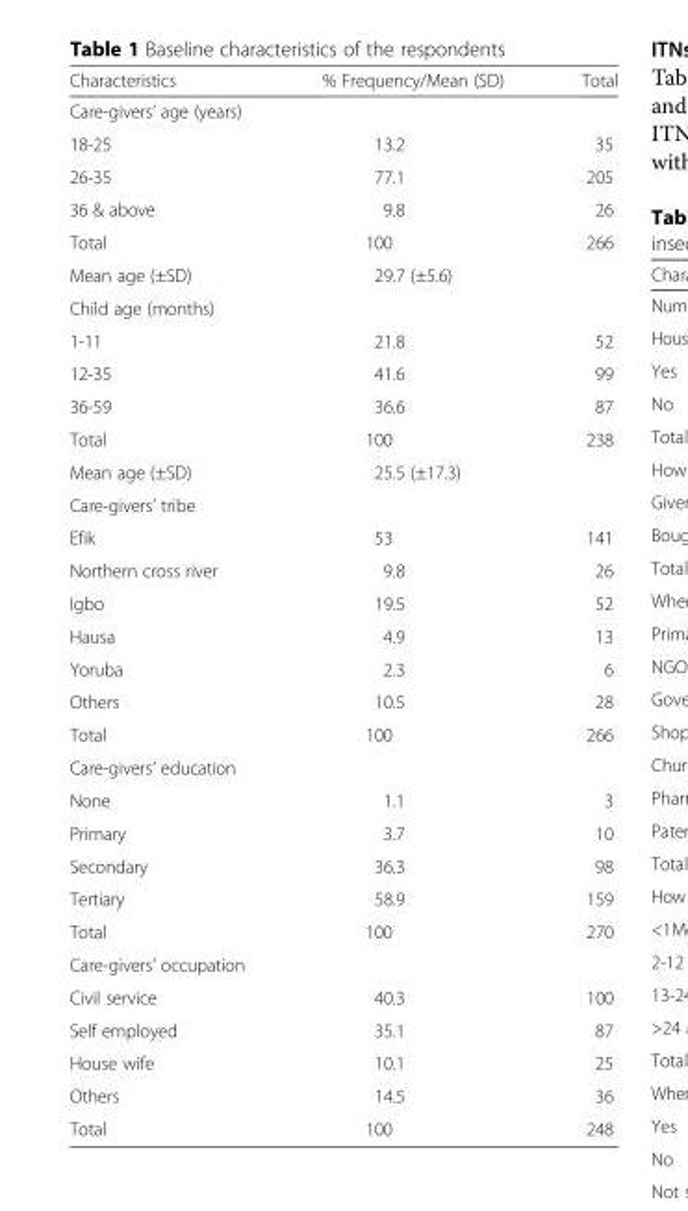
<table><thead><tr><td>Characteristics</td><td>% Frequency/Mean (SD)</td><td>Total</td></tr></thead><tbody><tr><td colspan="3">Care-givers’ age (years)</td></tr><tr><td>18-25</td><td>13.2</td><td>35</td></tr><tr><td>26-35</td><td>77.1</td><td>205</td></tr><tr><td>36 &amp; above</td><td>9.8</td><td>26</td></tr><tr><td>Total</td><td>100</td><td>266</td></tr><tr><td>Mean age (±SD)</td><td>29.7 (±5.6)</td><td></td></tr><tr><td colspan="3">Child age (months)</td></tr><tr><td>1-11</td><td>21.8</td><td>52</td></tr><tr><td>12-35</td><td>41.6</td><td>99</td></tr><tr><td>36-59</td><td>36.6</td><td>87</td></tr><tr><td>Total</td><td>100</td><td>238</td></tr><tr><td>Mean age (±SD)</td><td>25.5 (±17.3)</td><td></td></tr><tr><td colspan="3">Care-givers’ tribe</td></tr><tr><td>Efik</td><td>53</td><td>141</td></tr><tr><td>Northern cross river</td><td>9.8</td><td>26</td></tr><tr><td>Igbo</td><td>19.5</td><td>52</td></tr><tr><td>Hausa</td><td>4.9</td><td>13</td></tr><tr><td>Yoruba</td><td>2.3</td><td>6</td></tr><tr><td>Others</td><td>10.5</td><td>28</td></tr><tr><td>Total</td><td>100</td><td>266</td></tr><tr><td colspan="3">Care-givers’ education</td></tr><tr><td>None</td><td>1.1</td><td>3</td></tr><tr><td>Primary</td><td>3.7</td><td>10</td></tr><tr><td>Secondary</td><td>36.3</td><td>98</td></tr><tr><td>Tertiary</td><td>58.9</td><td>159</td></tr><tr><td>Total</td><td>100</td><td>270</td></tr><tr><td colspan="3">Care-givers’ occupation</td></tr><tr><td>Civil service</td><td>40.3</td><td>100</td></tr><tr><td>Self employed</td><td>35.1</td><td>87</td></tr><tr><td>House wife</td><td>10.1</td><td>25</td></tr><tr><td>Others</td><td>14.5</td><td>36</td></tr><tr><td>Total</td><td>100</td><td>248</td></tr></tbody></table>